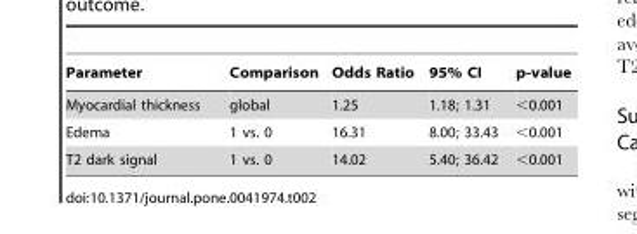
<table><thead><tr><td>Parameter</td><td>Comparison</td><td>Odds Ratio</td><td>95% CI</td><td>p-value</td></tr></thead><tbody><tr><td>Myocardial thickness</td><td>global</td><td>1.25</td><td>1.18; 1.31</td><td>&lt;0.001</td></tr><tr><td>Edema</td><td>1 vs. 0</td><td>16.31</td><td>8.00; 33.43</td><td>&lt;0.001</td></tr><tr><td>T2 dark signal</td><td>1 vs. 0</td><td>14.02</td><td>5.40; 36.42</td><td>&lt;0.001</td></tr></tbody></table>